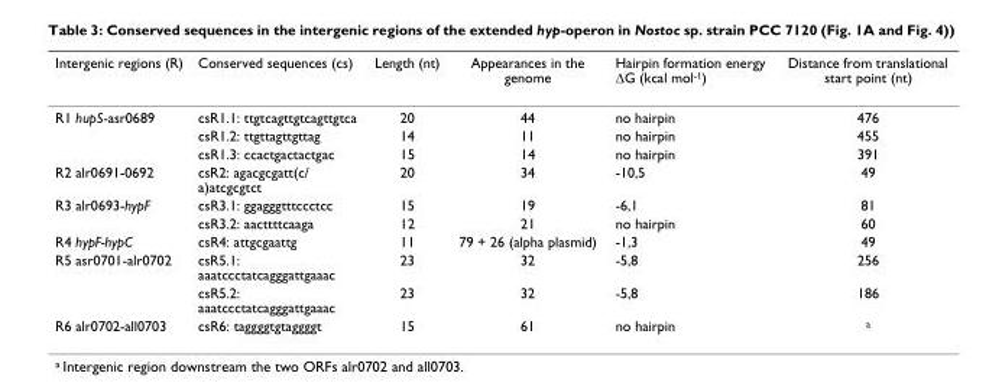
<table><thead><tr><td>Intergenic regions (R)</td><td>Conserved sequences (cs)</td><td>Length (nt)</td><td>Appearances in the genome</td><td>Hairpin formation energy ∆G (kcal mol-1)</td><td>Distance from translational start point (nt)</td></tr></thead><tbody><tr><td rowspan="3">R1 hupS-asr0689</td><td>csR1.1: ttgtcagttgtcagttgtca</td><td>20</td><td>44</td><td>no hairpin</td><td>476</td></tr><tr><td>csR1.2: ttgttagttgttag</td><td>14</td><td>11</td><td>no hairpin</td><td>455</td></tr><tr><td>csR1.3: ccactgactactgac</td><td>15</td><td>14</td><td>no hairpin</td><td>391</td></tr><tr><td>R2 alr0691-0692</td><td>csR2: agacgcgatt(c/ a)atcgcgtct</td><td>20</td><td>34</td><td>-10,5</td><td>49</td></tr><tr><td rowspan="2">R3 alr0693-hypF</td><td>csR3.1: ggagggtttccctcc</td><td>15</td><td>19</td><td>-6,1</td><td>81</td></tr><tr><td>csR3.2: aacttttcaaga</td><td>12</td><td>21</td><td>no hairpin</td><td>60</td></tr><tr><td>R4 hypF-hypC</td><td>csR4: attgcgaattg</td><td>11</td><td>79 + 26 (alpha plasmid)</td><td>-1,3</td><td>49</td></tr><tr><td rowspan="2">R5 asr0701-alr0702</td><td>csR5.1: aaatccctatcagggattgaaac</td><td>23</td><td>32</td><td>-5,8</td><td>256</td></tr><tr><td>csR5.2: aaatccctatcagggattgaaac</td><td>23</td><td>32</td><td>-5,8</td><td>186</td></tr><tr><td>R6 alr0702-all0703</td><td>csR6: taggggtgtaggggt</td><td>15</td><td>61</td><td>no hairpin</td><td><sup>a</sup></td></tr></tbody></table>